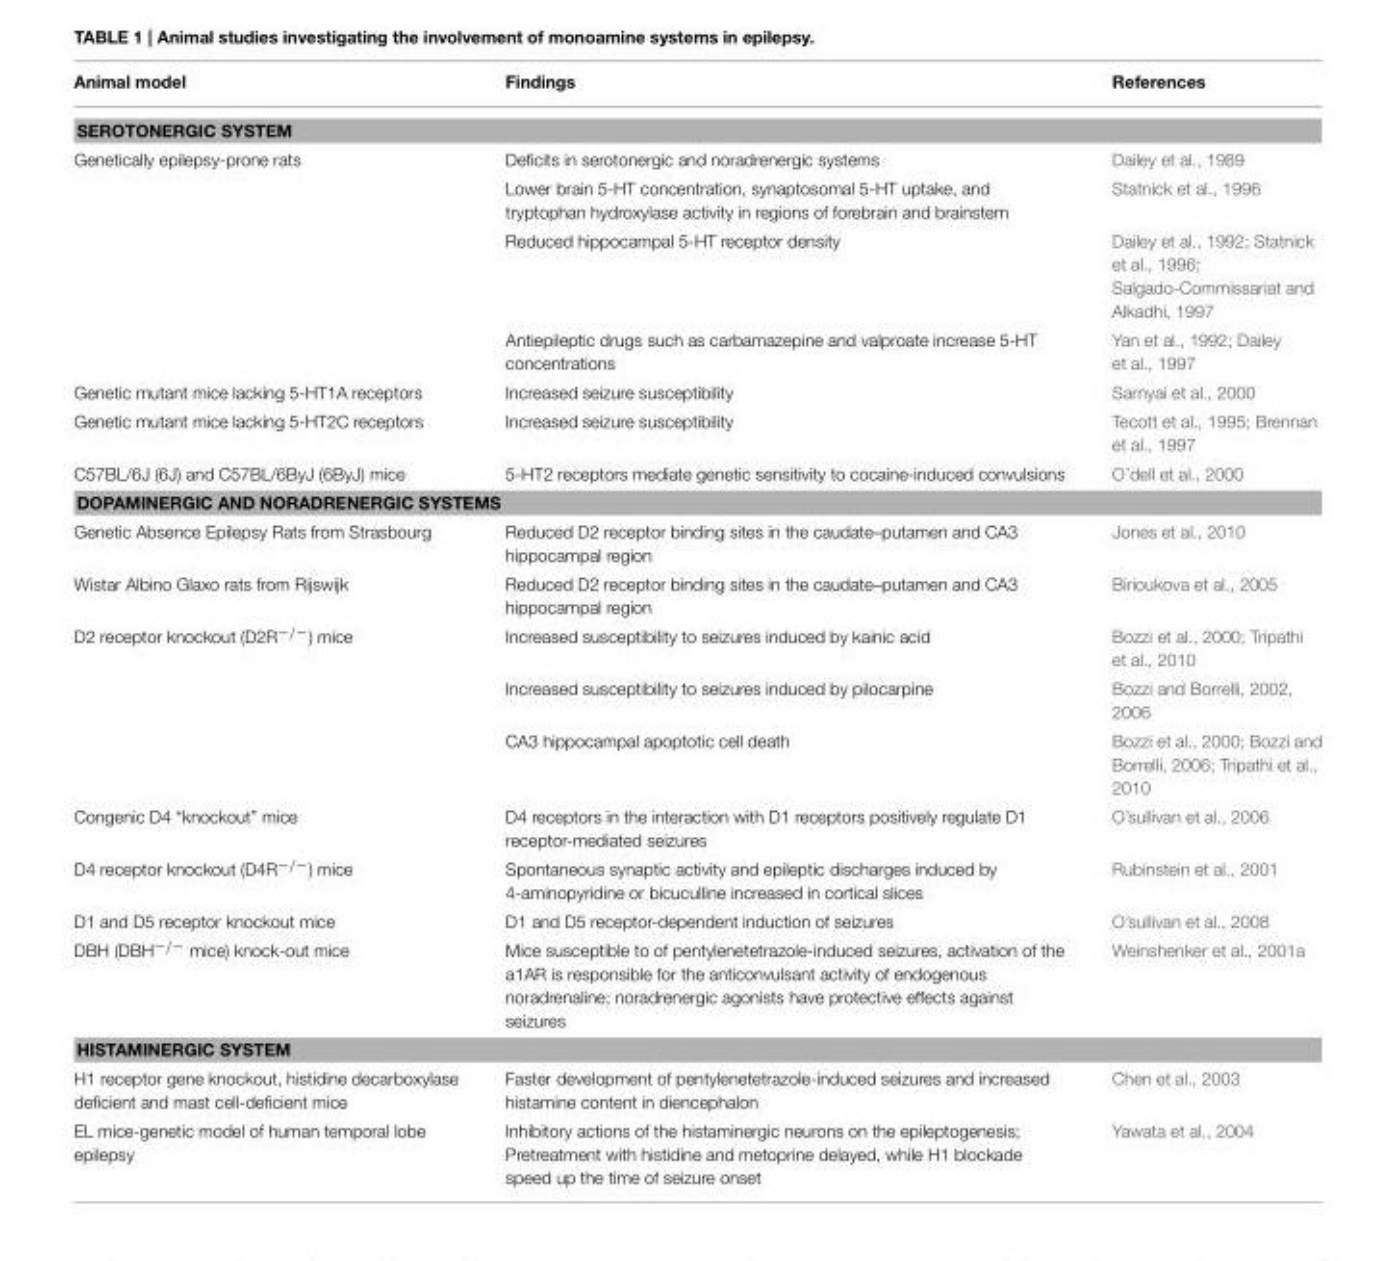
<table><thead><tr><td>Animal model</td><td>Findings</td><td>References</td></tr></thead><tbody><tr><td colspan="3">SEROTONERGIC SYSTEM</td></tr><tr><td rowspan="4">Genetically epilepsy-prone rats</td><td>Deficits in serotonergic and noradrenergic systems</td><td>Dailey et al., 1989</td></tr><tr><td>Lower brain 5-HT concentration, synaptosomal 5-HT uptake, and tryptophan hydroxylase activity in regions of forebrain and brainstem</td><td>Statnick et al., 1996</td></tr><tr><td>Reduced hippocampal 5-HT receptor density</td><td>Dailey et al., 1992; Statnick et al., 1996; Salgado-Commissariat and Alkadhi, 1997</td></tr><tr><td>Antiepileptic drugs such as carbamazepine and valproate increase 5-HT concentrations</td><td>Yan et al., 1992; Dailey et al., 1997</td></tr><tr><td>Genetic mutant mice lacking 5-HT1A receptors</td><td>Increased seizure susceptibility</td><td>Sarnyai et al., 2000</td></tr><tr><td>Genetic mutant mice lacking 5-HT2C receptors</td><td>Increased seizure susceptibility</td><td>Tecott et al., 1995; Brennan et al., 1997</td></tr><tr><td>C57BL/6J (6J) and C57BL/6ByJ (6ByJ) mice</td><td>5-HT2 receptors mediate genetic sensitivity to cocaine-induced convulsions</td><td>O’dell et al., 2000</td></tr><tr><td colspan="3">DOPAMINERGIC AND NORADRENERGIC SYSTEMS</td></tr><tr><td>Genetic Absence Epilepsy Rats from Strasbourg</td><td>Reduced D2 receptor binding sites in the caudate–putamen and CA3 hippocampal region</td><td>Jones et al., 2010</td></tr><tr><td>Wistar Albino Glaxo rats from Rijswijk</td><td>Reduced D2 receptor binding sites in the caudate–putamen and CA3 hippocampal region</td><td>Birioukova et al., 2005</td></tr><tr><td rowspan="3">D2 receptor knockout (D2R<sup>−/−</sup>) mice</td><td>Increased susceptibility to seizures induced by kainic acid</td><td>Bozzi et al., 2000; Tripathi et al., 2010</td></tr><tr><td>Increased susceptibility to seizures induced by pilocarpine</td><td>Bozzi and Borrelli, 2002, 2006</td></tr><tr><td>CA3 hippocampal apoptotic cell death</td><td>Bozzi et al., 2000; Bozzi and Borrelli, 2006; Tripathi et al., 2010</td></tr><tr><td>Congenic D4 “knockout” mice</td><td>D4 receptors in the interaction with D1 receptors positively regulate D1 receptor-mediated seizures</td><td>O’sullivan et al., 2006</td></tr><tr><td>D4 receptor knockout (D4R<sup>−/−</sup>) mice</td><td>Spontaneous synaptic activity and epileptic discharges induced by 4-aminopyridine or bicuculline increased in cortical slices</td><td>Rubinstein et al., 2001</td></tr><tr><td>D1 and D5 receptor knockout mice</td><td>D1 and D5 receptor-dependent induction of seizures</td><td>O’sullivan et al., 2008</td></tr><tr><td>DBH (DBH<sup>−/−</sup> mice) knock-out mice</td><td>Mice susceptible to of pentylenetetrazole-induced seizures, activation of the a1AR is responsible for the anticonvulsant activity of endogenous noradrenaline; noradrenergic agonists have protective effects against seizures</td><td>Weinshenker et al., 2001a</td></tr><tr><td colspan="3">HISTAMINERGIC SYSTEM</td></tr><tr><td>H1 receptor gene knockout, histidine decarboxylase deficient and mast cell-deficient mice</td><td>Faster development of pentylenetetrazole-induced seizures and increased histamine content in diencephalon</td><td>Chen et al., 2003</td></tr><tr><td>EL mice-genetic model of human temporal lobe epilepsy</td><td>Inhibitory actions of the histaminergic neurons on the epileptogenesis; Pretreatment with histidine and metoprine delayed, while H1 blockade speed up the time of seizure onset</td><td>Yawata et al., 2004</td></tr></tbody></table>